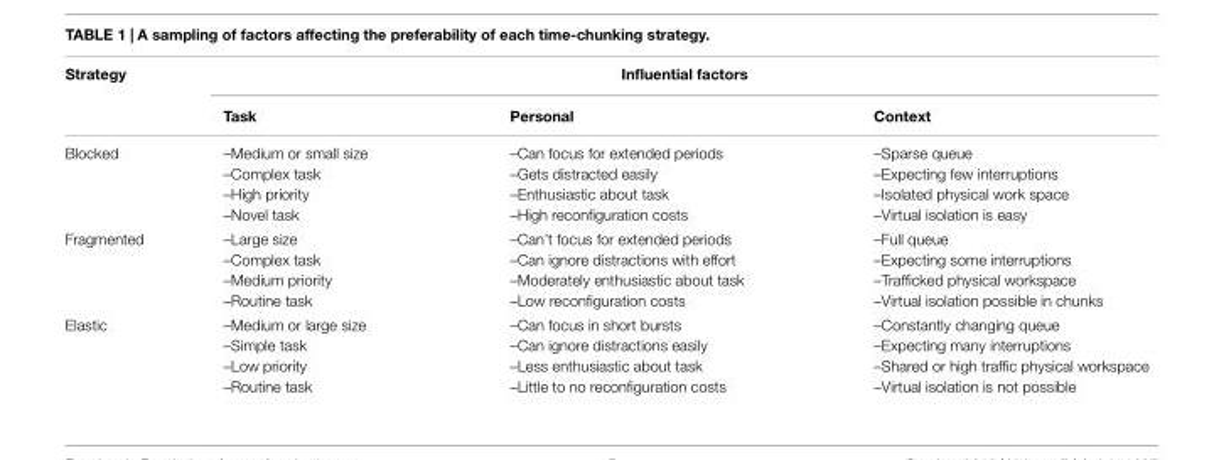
<table><thead><tr><td rowspan="2">Strategy</td><td colspan="3">Influential factors</td></tr><tr><td>Task</td><td>Personal</td><td>Context</td></tr></thead><tbody><tr><td>Blocked</td><td>–Medium or small size –Complex task –High priority –Novel task</td><td>–Can focus for extended periods –Gets distracted easily –Enthusiastic about task –High reconfiguration costs</td><td>–Sparse queue –Expecting few interruptions –Isolated physical work space –Virtual isolation is easy</td></tr><tr><td>Fragmented</td><td>–Large size –Complex task –Medium priority –Routine task</td><td>–Can’t focus for extended periods –Can ignore distractions with effort –Moderately enthusiastic about task –Low reconfiguration costs</td><td>–Full queue –Expecting some interruptions –Trafficked physical workspace –Virtual isolation possible in chunks</td></tr><tr><td>Elastic</td><td>–Medium or large size –Simple task –Low priority –Routine task</td><td>–Can focus in short bursts –Can ignore distractions easily –Less enthusiastic about task –Little to no reconfiguration costs</td><td>–Constantly changing queue –Expecting many interruptions –Shared or high traffic physical workspace –Virtual isolation is not possible</td></tr></tbody></table>